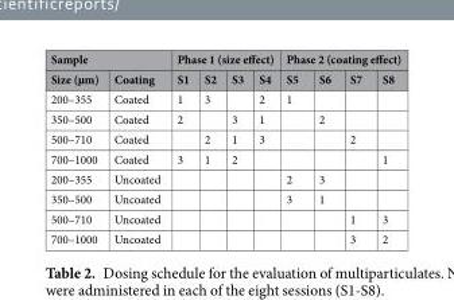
<table><thead><tr><td colspan="2">Sample</td><td colspan="4">Phase 1 (size effect)</td><td colspan="4">Phase 2 (coating effect)</td></tr><tr><td>Size (µm)</td><td>Coating</td><td>S1</td><td>S2</td><td>S3</td><td>S4</td><td>S5</td><td>S6</td><td>S7</td><td>S8</td></tr></thead><tbody><tr><td>200–355</td><td>Coated</td><td>1</td><td>3</td><td></td><td>2</td><td>1</td><td></td><td></td><td></td></tr><tr><td>350–500</td><td>Coated</td><td>2</td><td></td><td>3</td><td>1</td><td></td><td>2</td><td></td><td></td></tr><tr><td>500–710</td><td>Coated</td><td></td><td>2</td><td>1</td><td>3</td><td></td><td></td><td>2</td><td></td></tr><tr><td>700–1000</td><td>Coated</td><td>3</td><td>1</td><td>2</td><td></td><td></td><td></td><td></td><td>1</td></tr><tr><td>200–355</td><td>Uncoated</td><td></td><td></td><td></td><td></td><td>2</td><td>3</td><td></td><td></td></tr><tr><td>350–500</td><td>Uncoated</td><td></td><td></td><td></td><td></td><td>3</td><td>1</td><td></td><td></td></tr><tr><td>500–710</td><td>Uncoated</td><td></td><td></td><td></td><td></td><td></td><td></td><td>1</td><td>3</td></tr><tr><td>700–1000</td><td>Uncoated</td><td></td><td></td><td></td><td></td><td></td><td></td><td>3</td><td>2</td></tr></tbody></table>